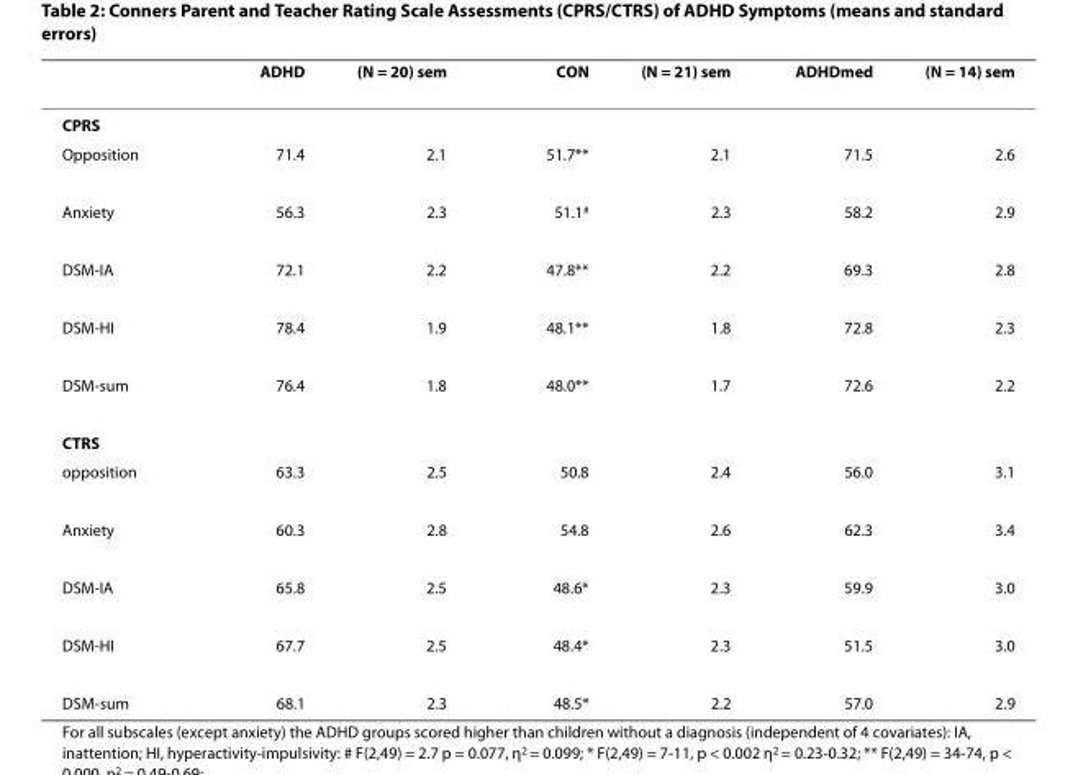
<table><thead><tr><td></td><td>ADHD</td><td>(N = 20) sem</td><td>CON</td><td>(N = 21) sem</td><td>ADHDmed</td><td>(N = 14) sem</td></tr></thead><tbody><tr><td colspan="7">CPRS</td></tr><tr><td>Opposition</td><td>71.4</td><td>2.1</td><td>51.7**</td><td>2.1</td><td>71.5</td><td>2.6</td></tr><tr><td>Anxiety</td><td>56.3</td><td>2.3</td><td>51.1<sup>#</sup></td><td>2.3</td><td>58.2</td><td>2.9</td></tr><tr><td>DSM-IA</td><td>72.1</td><td>2.2</td><td>47.8**</td><td>2.2</td><td>69.3</td><td>2.8</td></tr><tr><td>DSM-HI</td><td>78.4</td><td>1.9</td><td>48.1**</td><td>1.8</td><td>72.8</td><td>2.3</td></tr><tr><td>DSM-sum</td><td>76.4</td><td>1.8</td><td>48.0**</td><td>1.7</td><td>72.6</td><td>2.2</td></tr><tr><td colspan="7">CTRS</td></tr><tr><td>opposition</td><td>63.3</td><td>2.5</td><td>50.8</td><td>2.4</td><td>56.0</td><td>3.1</td></tr><tr><td>Anxiety</td><td>60.3</td><td>2.8</td><td>54.8</td><td>2.6</td><td>62.3</td><td>3.4</td></tr><tr><td>DSM-IA</td><td>65.8</td><td>2.5</td><td>48.6*</td><td>2.3</td><td>59.9</td><td>3.0</td></tr><tr><td>DSM-HI</td><td>67.7</td><td>2.5</td><td>48.4*</td><td>2.3</td><td>51.5</td><td>3.0</td></tr><tr><td>DSM-sum</td><td>68.1</td><td>2.3</td><td>48.5*</td><td>2.2</td><td>57.0</td><td>2.9</td></tr></tbody></table>